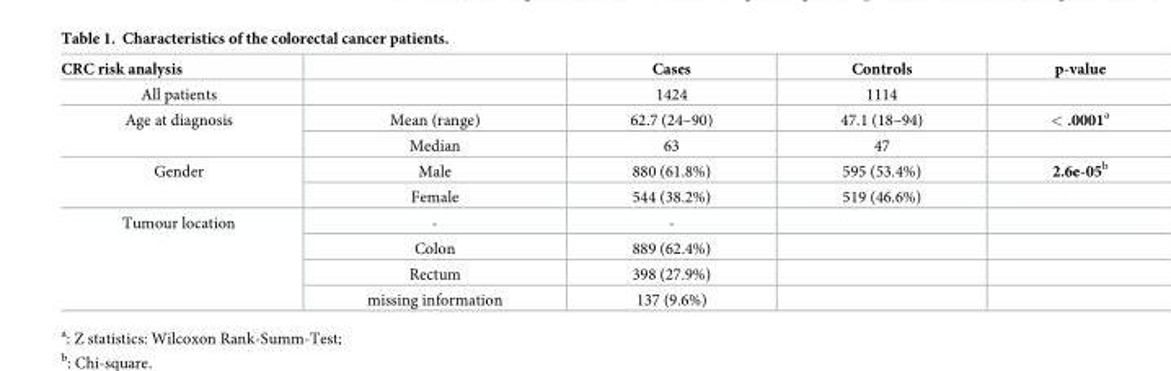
<table><thead><tr><td>CRC risk analysis</td><td></td><td>Cases</td><td>Controls</td><td>p-value</td></tr></thead><tbody><tr><td>All patients</td><td></td><td>1424</td><td>1114</td><td></td></tr><tr><td rowspan="2">Age at diagnosis</td><td>Mean (range)</td><td>62.7 (24–90)</td><td>47.1 (18–94)</td><td>&lt; .0001<sup>a</sup></td></tr><tr><td>Median</td><td>63</td><td>47</td><td></td></tr><tr><td rowspan="2">Gender</td><td>Male</td><td>880 (61.8%)</td><td>595 (53.4%)</td><td>2.6e-05<sup>b</sup></td></tr><tr><td>Female</td><td>544 (38.2%)</td><td>519 (46.6%)</td><td></td></tr><tr><td rowspan="4">Tumour location</td><td>-</td><td>-</td><td></td><td></td></tr><tr><td>Colon</td><td>889 (62.4%)</td><td></td><td></td></tr><tr><td>Rectum</td><td>398 (27.9%)</td><td></td><td></td></tr><tr><td>missing information</td><td>137 (9.6%)</td><td></td><td></td></tr></tbody></table>